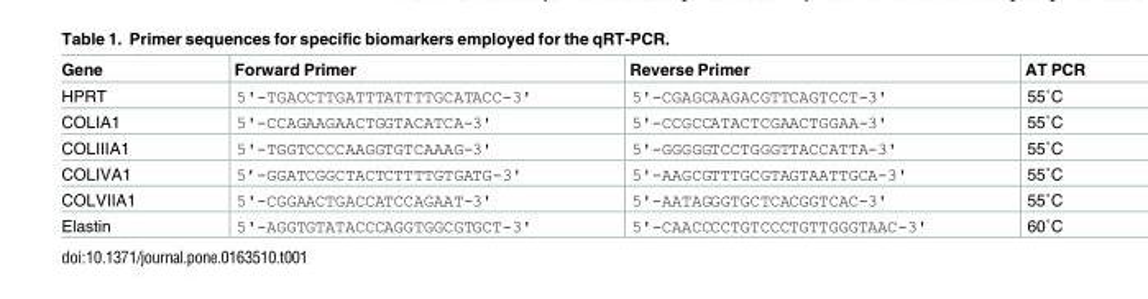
<table><thead><tr><td>Gene</td><td>Forward Primer</td><td>Reverse Primer</td><td>AT PCR</td></tr></thead><tbody><tr><td>HPRT</td><td>5&#x27;-TGACCTTGATTTATTTTGCATACC-3&#x27;</td><td>5&#x27;-CGAGCAAGACGTTCAGTCCT-3&#x27;</td><td>55˚C</td></tr><tr><td>COLIA1</td><td>5&#x27;-CCAGAAGAACTGGTACATCA-3&#x27;</td><td>5&#x27;-CCGCCATACTCGAACTGGAA-3&#x27;</td><td>55˚C</td></tr><tr><td>COLIIIA1</td><td>5&#x27;-TGGTCCCCAAGGTGTCAAAG-3&#x27;</td><td>5&#x27;-GGGGGTCCTGGGTTACCATTA-3&#x27;</td><td>55˚C</td></tr><tr><td>COLIVA1</td><td>5’-GGATCGGCTACTCTTTTGTGATG-3&#x27;</td><td>5&#x27;-AAGCGTTTGCGTAGTAATTGCA-3&#x27;</td><td>55˚C</td></tr><tr><td>COLVIIA1</td><td>5&#x27;-CGGAACTGACCATCCAGAAT-3&#x27;</td><td>5&#x27;-AATAGGGTGCTCACGGTCAC-3&#x27;</td><td>55˚C</td></tr><tr><td>Elastin</td><td>5&#x27;-AGGTGTATACCCAGGTGGCGTGCT-3&#x27;</td><td>5&#x27;-CAACCCCTGTCCCTGTTGGGTAAC-3&#x27;</td><td>60˚C</td></tr></tbody></table>